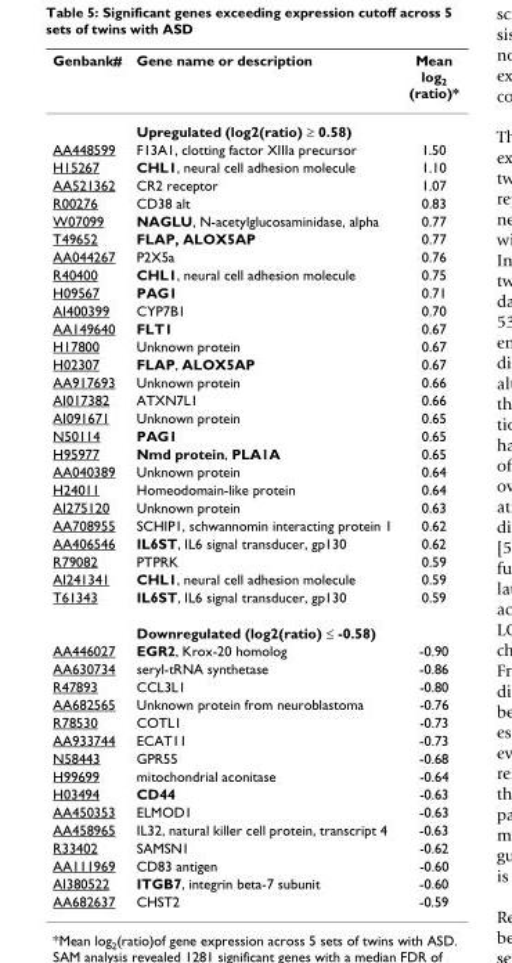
<table><thead><tr><td>Genbank#</td><td>Gene name or description</td><td>Mean log<sub>2</sub> (ratio)*</td></tr></thead><tbody><tr><td></td><td>Upregulated (log2(ratio) ≥ 0.58)</td><td></td></tr><tr><td>AA448599</td><td>F13A1, clotting factor XIIIa precursor</td><td>1.50</td></tr><tr><td>H15267</td><td>CHL1, neural cell adhesion molecule</td><td>1.10</td></tr><tr><td>AA521362</td><td>CR2 receptor</td><td>1.07</td></tr><tr><td>R00276</td><td>CD38 alt</td><td>0.83</td></tr><tr><td>W07099</td><td>NAGLU, N-acetylglucosaminidase, alpha</td><td>0.77</td></tr><tr><td>T49652</td><td>FLAP, ALOX5AP</td><td>0.77</td></tr><tr><td>AA044267</td><td>P2X5a</td><td>0.76</td></tr><tr><td>R40400</td><td>CHL1, neural cell adhesion molecule</td><td>0.75</td></tr><tr><td>H09567</td><td>PAG1</td><td>0.71</td></tr><tr><td>AI400399</td><td>CYP7B1</td><td>0.70</td></tr><tr><td>AA149640</td><td>FLT1</td><td>0.67</td></tr><tr><td>H17800</td><td>Unknown protein</td><td>0.67</td></tr><tr><td>H02307</td><td>FLAP, ALOX5AP</td><td>0.67</td></tr><tr><td>AA917693</td><td>Unknown protein</td><td>0.66</td></tr><tr><td>AI017382</td><td>ATXN7L1</td><td>0.66</td></tr><tr><td>AI091671</td><td>Unknown protein</td><td>0.65</td></tr><tr><td>N50114</td><td>PAG1</td><td>0.65</td></tr><tr><td>H95977</td><td>Nmd protein, PLA1A</td><td>0.65</td></tr><tr><td>AA040389</td><td>Unknown protein</td><td>0.64</td></tr><tr><td>H24011</td><td>Homeodomain-like protein</td><td>0.64</td></tr><tr><td>AI275120</td><td>Unknown protein</td><td>0.63</td></tr><tr><td>AA708955</td><td>SCHIP1, schwannomin interacting protein 1</td><td>0.62</td></tr><tr><td>AA406546</td><td>IL6ST, IL6 signal transducer, gp130</td><td>0.62</td></tr><tr><td>R79082</td><td>PTPRK</td><td>0.59</td></tr><tr><td>AI241341</td><td>CHL1, neural cell adhesion molecule</td><td>0.59</td></tr><tr><td rowspan="2">T61343</td><td>IL6ST, IL6 signal transducer, gp130</td><td>0.59</td></tr><tr><td>Downregulated (log2(ratio) ≤ -0.58)</td><td></td></tr><tr><td>AA446027</td><td>EGR2, Krox-20 homolog</td><td>-0.90</td></tr><tr><td>AA630734</td><td>seryl-tRNA synthetase</td><td>-0.86</td></tr><tr><td>R47893</td><td>CCL3L1</td><td>-0.80</td></tr><tr><td>AA682565</td><td>Unknown protein from neuroblastoma</td><td>-0.76</td></tr><tr><td>R78530</td><td>COTL1</td><td>-0.73</td></tr><tr><td>AA933744</td><td>ECAT11</td><td>-0.73</td></tr><tr><td>N58443</td><td>GPR55</td><td>-0.68</td></tr><tr><td>H99699</td><td>mitochondrial aconitase</td><td>-0.64</td></tr><tr><td>H03494</td><td>CD44</td><td>-0.63</td></tr><tr><td>AA450353</td><td>ELMOD1</td><td>-0.63</td></tr><tr><td>AA458965</td><td>IL32, natural killer cell protein, transcript 4</td><td>-0.63</td></tr><tr><td>R33402</td><td>SAMSN1</td><td>-0.62</td></tr><tr><td>AA111969</td><td>CD83 antigen</td><td>-0.60</td></tr><tr><td>AI380522</td><td>ITGB7, integrin beta-7 subunit</td><td>-0.60</td></tr><tr><td>AA682637</td><td>CHST2</td><td>-0.59</td></tr></tbody></table>